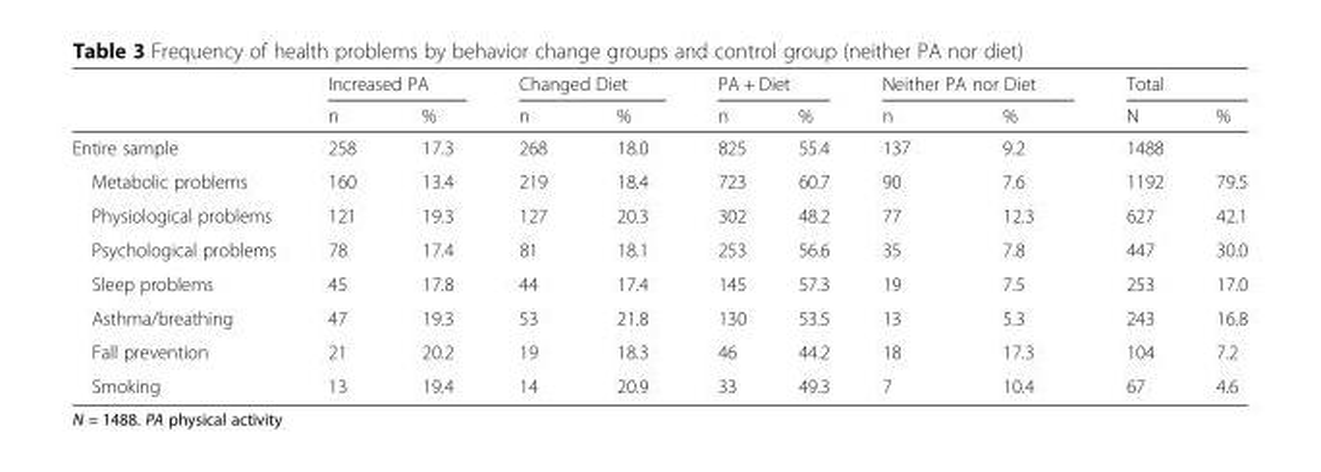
<table><thead><tr><td rowspan="2"></td><td colspan="2">Increased PA</td><td colspan="2">Changed Diet</td><td colspan="2">PA + Diet</td><td colspan="2">Neither PA nor Diet</td><td colspan="2">Total</td></tr><tr><td>n</td><td>%</td><td>n</td><td>%</td><td>n</td><td>%</td><td>n</td><td>%</td><td>N</td><td>%</td></tr></thead><tbody><tr><td>Entire sample</td><td>258</td><td>17.3</td><td>268</td><td>18.0</td><td>825</td><td>55.4</td><td>137</td><td>9.2</td><td>1488</td><td></td></tr><tr><td>Metabolic problems</td><td>160</td><td>13.4</td><td>219</td><td>18.4</td><td>723</td><td>60.7</td><td>90</td><td>7.6</td><td>1192</td><td>79.5</td></tr><tr><td>Physiological problems</td><td>121</td><td>19.3</td><td>127</td><td>20.3</td><td>302</td><td>48.2</td><td>77</td><td>12.3</td><td>627</td><td>42.1</td></tr><tr><td>Psychological problems</td><td>78</td><td>17.4</td><td>81</td><td>18.1</td><td>253</td><td>56.6</td><td>35</td><td>7.8</td><td>447</td><td>30.0</td></tr><tr><td>Sleep problems</td><td>45</td><td>17.8</td><td>44</td><td>17.4</td><td>145</td><td>57.3</td><td>19</td><td>7.5</td><td>253</td><td>17.0</td></tr><tr><td>Asthma/breathing</td><td>47</td><td>19.3</td><td>53</td><td>21.8</td><td>130</td><td>53.5</td><td>13</td><td>5.3</td><td>243</td><td>16.8</td></tr><tr><td>Fall prevention</td><td>21</td><td>20.2</td><td>19</td><td>18.3</td><td>46</td><td>44.2</td><td>18</td><td>17.3</td><td>104</td><td>7.2</td></tr><tr><td>Smoking</td><td>13</td><td>19.4</td><td>14</td><td>20.9</td><td>33</td><td>49.3</td><td>7</td><td>10.4</td><td>67</td><td>4.6</td></tr></tbody></table>